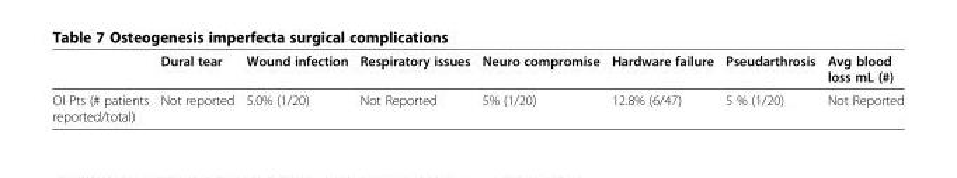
<table><thead><tr><td></td><td>Dural tear</td><td>Wound infection</td><td>Respiratory issues</td><td>Neuro compromise</td><td>Hardware failure</td><td>Pseudarthrosis</td><td>Avg blood loss mL (#)</td></tr></thead><tbody><tr><td>OI Pts (# patients reported/total)</td><td>Not reported</td><td>5.0% (1/20)</td><td>Not Reported</td><td>5% (1/20)</td><td>12.8% (6/47)</td><td>5 % (1/20)</td><td>Not Reported</td></tr></tbody></table>